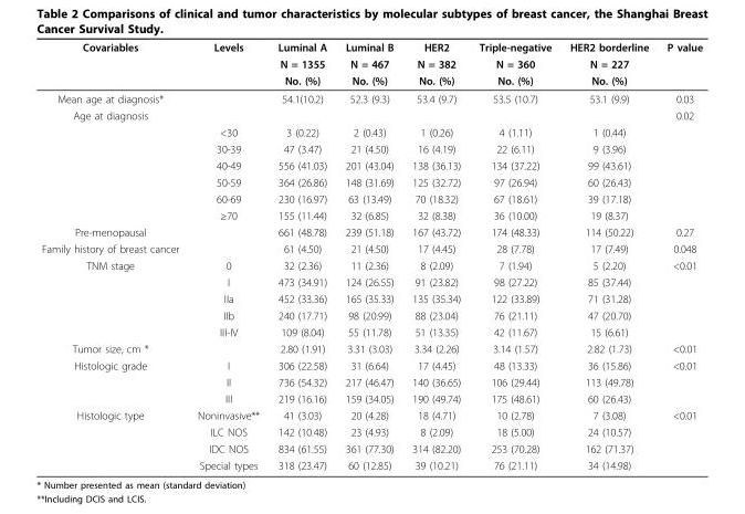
<table><thead><tr><td rowspan="3">Covariables</td><td rowspan="3">Levels</td><td rowspan="3">Luminal A N = 1355 No. (%)</td><td rowspan="3">Luminal B N = 467 No. (%)</td><td rowspan="3">HER2 N = 382 No. (%)</td><td rowspan="3">Triple-negative N = 360 No. (%)</td><td rowspan="3">HER2 borderline N = 227 No. (%)</td><td rowspan="3">P value</td></tr><tr></tr><tr></tr></thead><tbody><tr><td>Mean age at diagnosis*</td><td></td><td>54.1(10.2)</td><td>52.3 (9.3)</td><td>53.4 (9.7)</td><td>53.5 (10.7)</td><td>53.1 (9.9)</td><td>0.03</td></tr><tr><td rowspan="7">Age at diagnosis</td><td></td><td></td><td></td><td></td><td></td><td></td><td>0.02</td></tr><tr><td>&lt;30</td><td>3 (0.22)</td><td>2 (0.43)</td><td>1 (0.26)</td><td>4 (1.11)</td><td>1 (0.44)</td><td></td></tr><tr><td>30-39</td><td>47 (3.47)</td><td>21 (4.50)</td><td>16 (4.19)</td><td>22 (6.11)</td><td>9 (3.96)</td><td></td></tr><tr><td>40-49</td><td>556 (41.03)</td><td>201 (43.04)</td><td>138 (36.13)</td><td>134 (37.22)</td><td>99 (43.61)</td><td></td></tr><tr><td>50-59</td><td>364 (26.86)</td><td>148 (31.69)</td><td>125 (32.72)</td><td>97 (26.94)</td><td>60 (26.43)</td><td></td></tr><tr><td>60-69</td><td>230 (16.97)</td><td>63 (13.49)</td><td>70 (18.32)</td><td>67 (18.61)</td><td>39 (17.18)</td><td></td></tr><tr><td>≥70</td><td>155 (11.44)</td><td>32 (6.85)</td><td>32 (8.38)</td><td>36 (10.00)</td><td>19 (8.37)</td><td></td></tr><tr><td>Pre-menopausal</td><td></td><td>661 (48.78)</td><td>239 (51.18)</td><td>167 (43.72)</td><td>174 (48.33)</td><td>114 (50.22)</td><td>0.27</td></tr><tr><td>Family history of breast cancer</td><td></td><td>61 (4.50)</td><td>21 (4.50)</td><td>17 (4.45)</td><td>28 (7.78)</td><td>17 (7.49)</td><td>0.048</td></tr><tr><td rowspan="5">TNM stage</td><td>0</td><td>32 (2.36)</td><td>11 (2.36)</td><td>8 (2.09)</td><td>7 (1.94)</td><td>5 (2.20)</td><td>&lt;0.01</td></tr><tr><td>I</td><td>473 (34.91)</td><td>124 (26.55)</td><td>91 (23.82)</td><td>98 (27.22)</td><td>85 (37.44)</td><td></td></tr><tr><td>IIa</td><td>452 (33.36)</td><td>165 (35.33)</td><td>135 (35.34)</td><td>122 (33.89)</td><td>71 (31.28)</td><td></td></tr><tr><td>IIb</td><td>240 (17.71)</td><td>98 (20.99)</td><td>88 (23.04)</td><td>76 (21.11)</td><td>47 (20.70)</td><td></td></tr><tr><td>III-IV</td><td>109 (8.04)</td><td>55 (11.78)</td><td>51 (13.35)</td><td>42 (11.67)</td><td>15 (6.61)</td><td></td></tr><tr><td>Tumor size, cm *</td><td></td><td>2.80 (1.91)</td><td>3.31 (3.03)</td><td>3.34 (2.26)</td><td>3.14 (1.57)</td><td>2.82 (1.73)</td><td>&lt;0.01</td></tr><tr><td rowspan="3">Histologic grade</td><td>I</td><td>306 (22.58)</td><td>31 (6.64)</td><td>17 (4.45)</td><td>48 (13.33)</td><td>36 (15.86)</td><td>&lt;0.01</td></tr><tr><td>II</td><td>736 (54.32)</td><td>217 (46.47)</td><td>140 (36.65)</td><td>106 (29.44)</td><td>113 (49.78)</td><td></td></tr><tr><td>III</td><td>219 (16.16)</td><td>159 (34.05)</td><td>190 (49.74)</td><td>175 (48.61)</td><td>60 (26.43)</td><td></td></tr><tr><td rowspan="4">Histologic type</td><td>Noninvasive**</td><td>41 (3.03)</td><td>20 (4.28)</td><td>18 (4.71)</td><td>10 (2.78)</td><td>7 (3.08)</td><td>&lt;0.01</td></tr><tr><td>ILC NOS</td><td>142 (10.48)</td><td>23 (4.93)</td><td>8 (2.09)</td><td>18 (5.00)</td><td>24 (10.57)</td><td></td></tr><tr><td>IDC NOS</td><td>834 (61.55)</td><td>361 (77.30)</td><td>314 (82.20)</td><td>253 (70.28)</td><td>162 (71.37)</td><td></td></tr><tr><td>Special types</td><td>318 (23.47)</td><td>60 (12.85)</td><td>39 (10.21)</td><td>76 (21.11)</td><td>34 (14.98)</td><td></td></tr></tbody></table>